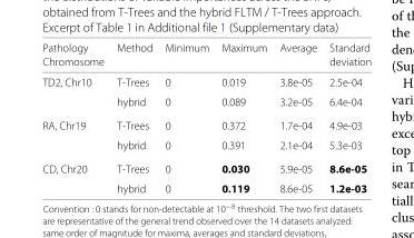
<table><thead><tr><td rowspan="2">Pathology Chromosome</td><td rowspan="2">Method</td><td rowspan="2">Minimum</td><td rowspan="2">Maximum</td><td rowspan="2">Average</td><td rowspan="2">Standard deviation</td></tr><tr></tr></thead><tbody><tr><td rowspan="2">TD2, Chr10</td><td>T-Trees</td><td>0</td><td>0.019</td><td>3.8e-05</td><td>2.5e-04</td></tr><tr><td>hybrid</td><td>0</td><td>0.089</td><td>3.2e-05</td><td>6.4e-04</td></tr><tr><td rowspan="2">RA, Chr19</td><td>T-Trees</td><td>0</td><td>0.372</td><td>1.7e-04</td><td>4.9e-03</td></tr><tr><td>hybrid</td><td>0</td><td>0.391</td><td>2.1e-04</td><td>5.3e-03</td></tr><tr><td rowspan="2">CD, Chr20</td><td>T-Trees</td><td>0</td><td>0.030</td><td>5.9e-05</td><td>8.6e-05</td></tr><tr><td>hybrid</td><td>0</td><td>0.119</td><td>8.6e-05</td><td>1.2e-03</td></tr></tbody></table>